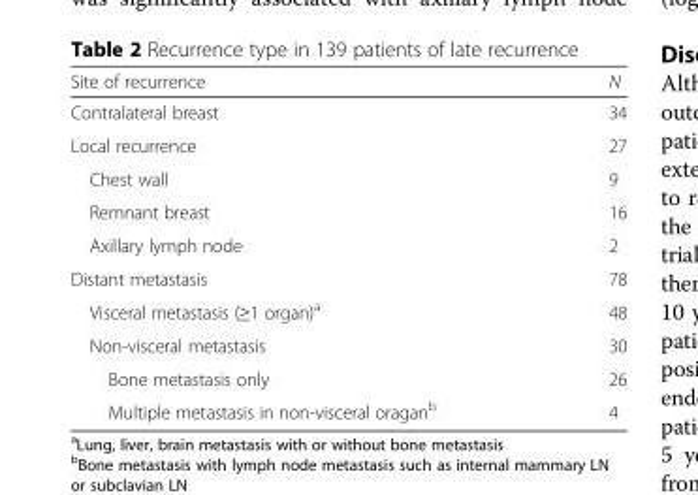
<table><thead><tr><td>Site of recurrence</td><td>N</td></tr></thead><tbody><tr><td>Contralateral breast</td><td>34</td></tr><tr><td>Local recurrence</td><td>27</td></tr><tr><td>Chest wall</td><td>9</td></tr><tr><td>Remnant breast</td><td>16</td></tr><tr><td>Axillary lymph node</td><td>2</td></tr><tr><td>Distant metastasis</td><td>78</td></tr><tr><td>Visceral metastasis (≥1 organ)<sup>a</sup></td><td>48</td></tr><tr><td>Non-visceral metastasis</td><td>30</td></tr><tr><td>Bone metastasis only</td><td>26</td></tr><tr><td>Multiple metastasis in non-visceral oragan<sup>b</sup></td><td>4</td></tr></tbody></table>